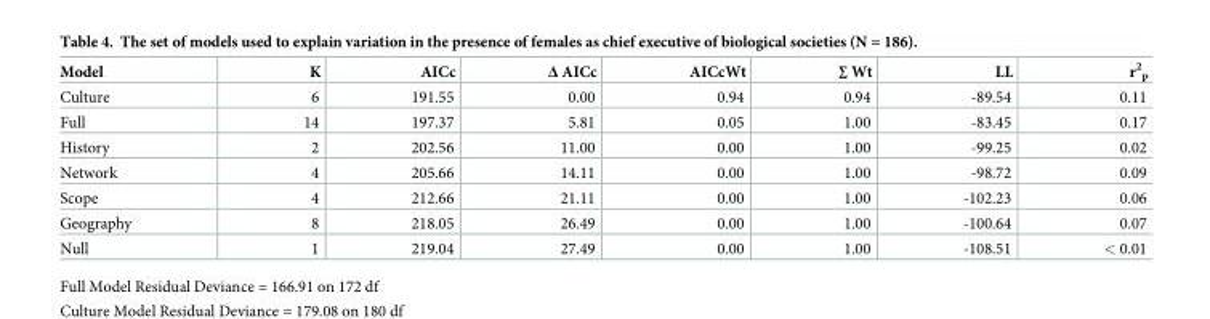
<table><thead><tr><td>Model</td><td>K</td><td>AICc</td><td>Δ AICc</td><td>AICcWt</td><td>∑ Wt</td><td>LL</td><td>r<sup>2</sup> <sub>p</sub></td></tr></thead><tbody><tr><td>Culture</td><td>6</td><td>191.55</td><td>0.00</td><td>0.94</td><td>0.94</td><td>-89.54</td><td>0.11</td></tr><tr><td>Full</td><td>14</td><td>197.37</td><td>5.81</td><td>0.05</td><td>1.00</td><td>-83.45</td><td>0.17</td></tr><tr><td>History</td><td>2</td><td>202.56</td><td>11.00</td><td>0.00</td><td>1.00</td><td>-99.25</td><td>0.02</td></tr><tr><td>Network</td><td>4</td><td>205.66</td><td>14.11</td><td>0.00</td><td>1.00</td><td>-98.72</td><td>0.09</td></tr><tr><td>Scope</td><td>4</td><td>212.66</td><td>21.11</td><td>0.00</td><td>1.00</td><td>-102.23</td><td>0.06</td></tr><tr><td>Geography</td><td>8</td><td>218.05</td><td>26.49</td><td>0.00</td><td>1.00</td><td>-100.64</td><td>0.07</td></tr><tr><td>Null</td><td>1</td><td>219.04</td><td>27.49</td><td>0.00</td><td>1.00</td><td>-108.51</td><td>&lt; 0.01</td></tr></tbody></table>